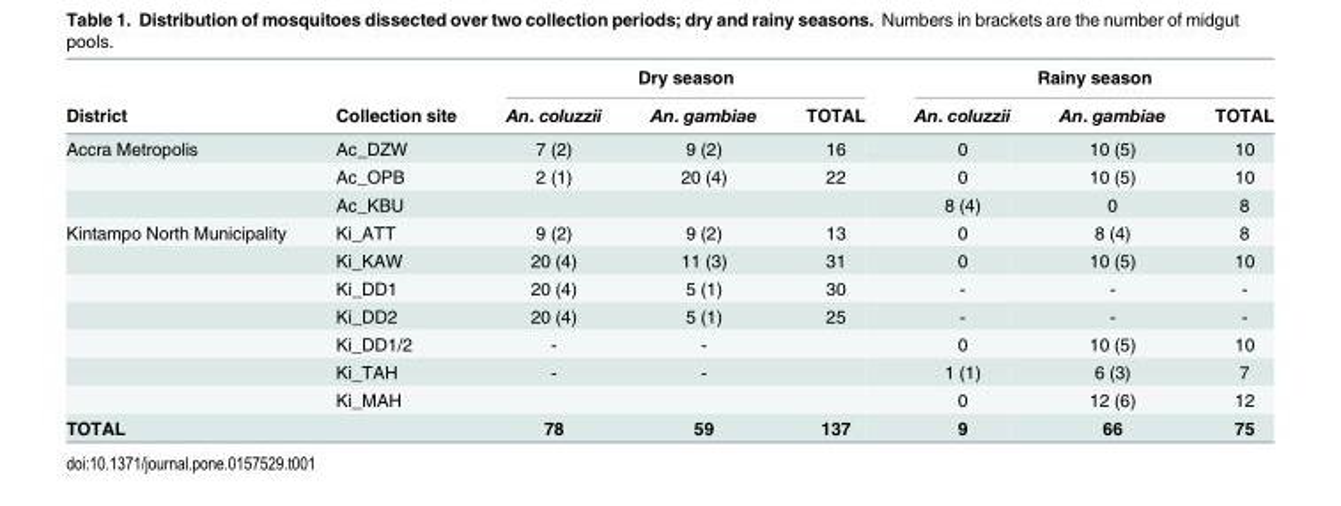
<table><thead><tr><td rowspan="2">District</td><td rowspan="2">Collection site</td><td colspan="3">Dry season</td><td colspan="3">Rainy season</td></tr><tr><td>An. coluzzii</td><td>An. gambiae</td><td>TOTAL</td><td>An. coluzzii</td><td>An. gambiae</td><td>TOTAL</td></tr></thead><tbody><tr><td rowspan="3">Accra Metropolis</td><td>Ac_DZW</td><td>7 (2)</td><td>9 (2)</td><td>16</td><td>0</td><td>10 (5)</td><td>10</td></tr><tr><td>Ac_OPB</td><td>2 (1)</td><td>20 (4)</td><td>22</td><td>0</td><td>10 (5)</td><td>10</td></tr><tr><td>Ac_KBU</td><td></td><td></td><td></td><td>8 (4)</td><td>0</td><td>8</td></tr><tr><td rowspan="7">Kintampo North Municipality</td><td>Ki_ATT</td><td>9 (2)</td><td>9 (2)</td><td>13</td><td>0</td><td>8 (4)</td><td>8</td></tr><tr><td>Ki_KAW</td><td>20 (4)</td><td>11 (3)</td><td>31</td><td>0</td><td>10 (5)</td><td>10</td></tr><tr><td>Ki_DD1</td><td>20 (4)</td><td>5 (1)</td><td>30</td><td>-</td><td>-</td><td>-</td></tr><tr><td>Ki_DD2</td><td>20 (4)</td><td>5 (1)</td><td>25</td><td>-</td><td>-</td><td>-</td></tr><tr><td>Ki_DD1/2</td><td>-</td><td>-</td><td></td><td>0</td><td>10 (5)</td><td>10</td></tr><tr><td>Ki_TAH</td><td>-</td><td>-</td><td></td><td>1 (1)</td><td>6 (3)</td><td>7</td></tr><tr><td>Ki_MAH</td><td></td><td></td><td></td><td>0</td><td>12 (6)</td><td>12</td></tr><tr><td>TOTAL</td><td></td><td>78</td><td>59</td><td>137</td><td>9</td><td>66</td><td>75</td></tr></tbody></table>